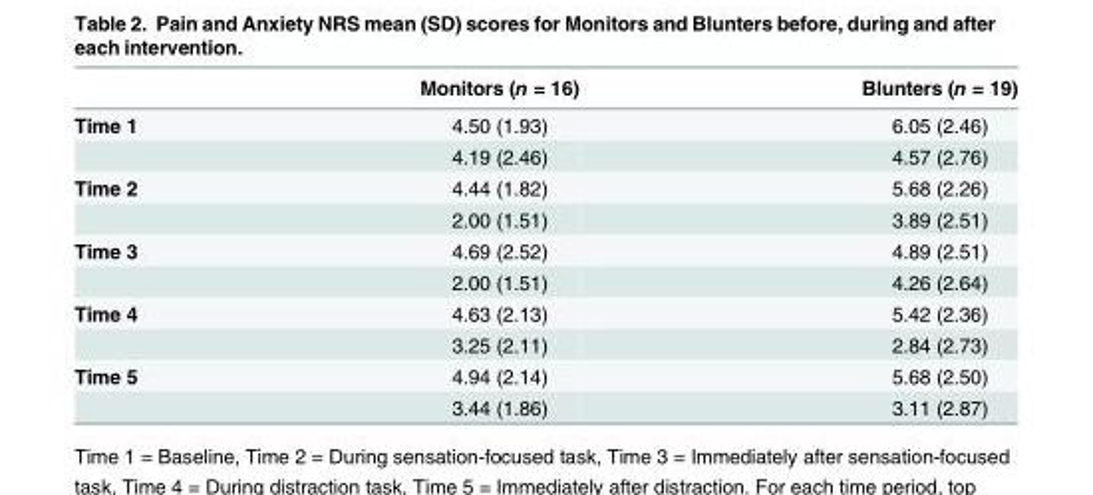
<table><thead><tr><td></td><td>Monitors (n = 16)</td><td>Blunters (n = 19)</td></tr></thead><tbody><tr><td rowspan="2">Time 1</td><td>4.50 (1.93)</td><td>6.05 (2.46)</td></tr><tr><td>4.19 (2.46)</td><td>4.57 (2.76)</td></tr><tr><td rowspan="2">Time 2</td><td>4.44 (1.82)</td><td>5.68 (2.26)</td></tr><tr><td>2.00 (1.51)</td><td>3.89 (2.51)</td></tr><tr><td rowspan="2">Time 3</td><td>4.69 (2.52)</td><td>4.89 (2.51)</td></tr><tr><td>2.00 (1.51)</td><td>4.26 (2.64)</td></tr><tr><td rowspan="2">Time 4</td><td>4.63 (2.13)</td><td>5.42 (2.36)</td></tr><tr><td>3.25 (2.11)</td><td>2.84 (2.73)</td></tr><tr><td rowspan="2">Time 5</td><td>4.94 (2.14)</td><td>5.68 (2.50)</td></tr><tr><td>3.44 (1.86)</td><td>3.11 (2.87)</td></tr></tbody></table>